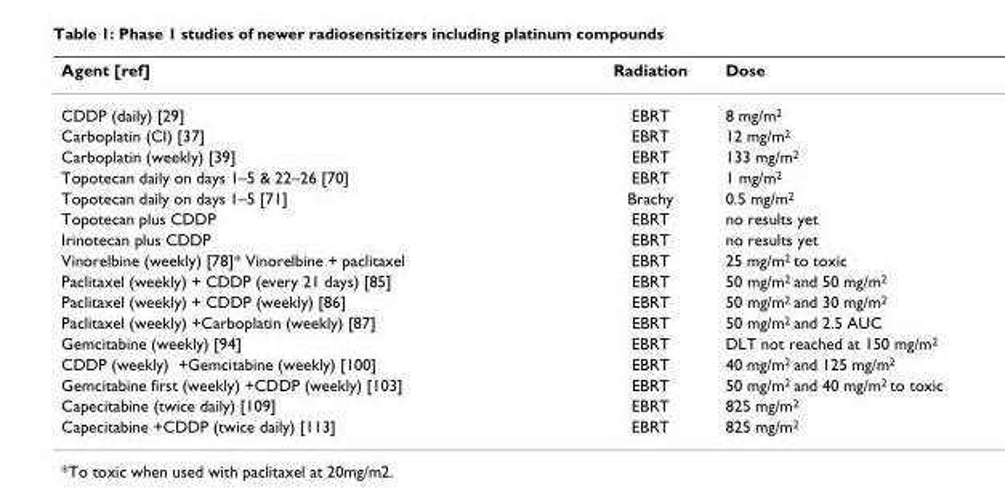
<table><thead><tr><td>Agent [ref]</td><td>Radiation</td><td>Dose</td></tr></thead><tbody><tr><td>CDDP (daily) [29]</td><td>EBRT</td><td>8 mg/m<sup>2</sup></td></tr><tr><td>Carboplatin (CI) [37]</td><td>EBRT</td><td>12 mg/m<sup>2</sup></td></tr><tr><td>Carboplatin (weekly) [39]</td><td>EBRT</td><td>133 mg/m<sup>2</sup></td></tr><tr><td>Topotecan daily on days 1–5 &amp; 22–26 [70]</td><td>EBRT</td><td>1 mg/m<sup>2</sup></td></tr><tr><td>Topotecan daily on days 1–5 [71]</td><td>Brachy</td><td>0.5 mg/m<sup>2</sup></td></tr><tr><td>Topotecan plus CDDP</td><td>EBRT</td><td>no results yet</td></tr><tr><td>Irinotecan plus CDDP</td><td>EBRT</td><td>no results yet</td></tr><tr><td>Vinorelbine (weekly) [78]* Vinorelbine + paclitaxel</td><td>EBRT</td><td>25 mg/m<sup>2</sup> to toxic</td></tr><tr><td>Paclitaxel (weekly) + CDDP (every 21 days) [85]</td><td>EBRT</td><td>50 mg/m<sup>2</sup> and 50 mg/m<sup>2</sup></td></tr><tr><td>Paclitaxel (weekly) + CDDP (weekly) [86]</td><td>EBRT</td><td>50 mg/m<sup>2</sup> and 30 mg/m<sup>2</sup></td></tr><tr><td>Paclitaxel (weekly) +Carboplatin (weekly) [87]</td><td>EBRT</td><td>50 mg/m<sup>2</sup> and 2.5 AUC</td></tr><tr><td>Gemcitabine (weekly) [94]</td><td>EBRT</td><td>DLT not reached at 150 mg/m<sup>2</sup></td></tr><tr><td>CDDP (weekly) +Gemcitabine (weekly) [100]</td><td>EBRT</td><td>40 mg/m<sup>2</sup> and 125 mg/m<sup>2</sup></td></tr><tr><td>Gemcitabine first (weekly) +CDDP (weekly) [103]</td><td>EBRT</td><td>50 mg/m<sup>2</sup> and 40 mg/m<sup>2</sup> to toxic</td></tr><tr><td>Capecitabine (twice daily) [109]</td><td>EBRT</td><td>825 mg/m<sup>2</sup></td></tr><tr><td>Capecitabine +CDDP (twice daily) [113]</td><td>EBRT</td><td>825 mg/m<sup>2</sup></td></tr></tbody></table>